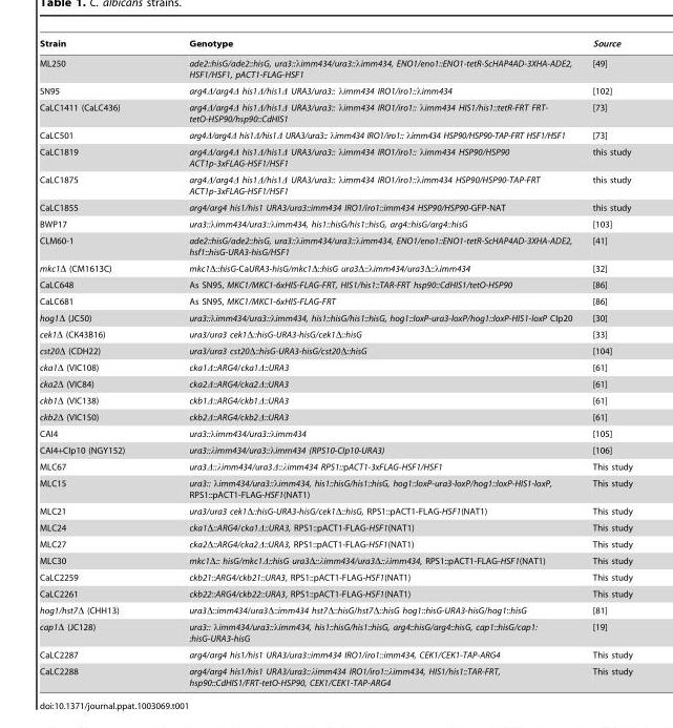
<table><thead><tr><td>Strain</td><td>Genotype</td><td>Source</td></tr></thead><tbody><tr><td>ML250</td><td>ade2::hisG/ade2::hisG, ura3::λimm434/ura3::λimm434, ENO1/eno1::ENO1-tetR-ScHAP4AD-3XHA-ADE2, HSF1/HSF1, pACT1-FLAG-HSF1</td><td>[49]</td></tr><tr><td>SN95</td><td>arg4Δ/arg4Δ his1Δ/his1Δ URA3/ura3:: λimm434 IRO1/iro1::λimm434</td><td>[102]</td></tr><tr><td>CaLC1411 (CaLC436)</td><td>arg4Δ/arg4Δ his1Δ/his1Δ URA3/ura3:: λimm434 IRO1/iro1:: λimm434 HIS1/his1::tetR-FRT FRT- tetO-HSP90/hsp90::CdHIS1</td><td>[73]</td></tr><tr><td>CaLC501</td><td>arg4Δ/arg4Δ his1Δ/his1Δ URA3/ura3:: λimm434 IRO1/iro1:: λimm434 HSP90/HSP90-TAP-FRT HSF1/HSF1</td><td>[73]</td></tr><tr><td>CaLC1819</td><td>arg4Δ/arg4Δ his1Δ/his1Δ URA3/ura3:: λimm434 IRO1/iro1:: λimm434 HSP90/HSP90 ACT1p-3xFLAG-HSF1/HSF1</td><td>this study</td></tr><tr><td>CaLC1875</td><td>arg4Δ/arg4Δ his1Δ/his1Δ URA3/ura3:: λimm434 IRO1/iro1::λimm434 HSP90/HSP90-TAP-FRT ACT1p-3xFLAG-HSF1/HSF1</td><td>this study</td></tr><tr><td>CaLC1855</td><td>arg4/arg4 his1/his1 URA3/ura3::imm434 IRO1/iro1::imm434 HSP90/HSP90-GFP-NAT</td><td>this study</td></tr><tr><td>BWP17</td><td>ura3::λimm434/ura3::λimm434, his1::hisG/his1::hisG, arg4::hisG/arg4::hisG</td><td>[103]</td></tr><tr><td>CLM60-1</td><td>ade2::hisG/ade2::hisG, ura3::λimm434/ura3::λimm434, ENO1/eno1::ENO1-tetR-ScHAP4AD-3XHA-ADE2, hsf1::hisG-URA3-hisG/HSF1</td><td>[41]</td></tr><tr><td>mkc1Δ (CM1613C)</td><td>mkc1Δ::hisG-CaURA3-hisG/mkc1Δ::hisG ura3Δ::λimm434/ura3Δ::λimm434</td><td>[32]</td></tr><tr><td>CaLC648</td><td>As SN95, MKC1/MKC1-6xHIS-FLAG-FRT, HIS1/his1::TAR-FRT hsp90::CdHIS1/tetO-HSP90</td><td>[86]</td></tr><tr><td>CaLC681</td><td>As SN95, MKC1/MKC1-6xHIS-FLAG-FRT</td><td>[86]</td></tr><tr><td>hog1Δ (JC50)</td><td>ura3::λimm434/ura3::λimm434, his1::hisG/his1::hisG, hog1::loxP-ura3-loxP/hog1::loxP-HIS1-loxP CIp20</td><td>[30]</td></tr><tr><td>cek1Δ (CK43B16)</td><td>ura3/ura3 cek1Δ::hisG-URA3-hisG/cek1Δ::hisG</td><td>[33]</td></tr><tr><td>cst20Δ (CDH22)</td><td>ura3/ura3 cst20Δ::hisG-URA3-hisG/cst20Δ::hisG</td><td>[104]</td></tr><tr><td>cka1Δ (VIC108)</td><td>cka1Δ::ARG4/cka1Δ::URA3</td><td>[61]</td></tr><tr><td>cka2Δ (VIC84)</td><td>cka2Δ::ARG4/cka2Δ::URA3</td><td>[61]</td></tr><tr><td>ckb1Δ (VIC138)</td><td>ckb1Δ::ARG4/ckb1Δ::URA3</td><td>[61]</td></tr><tr><td>ckb2Δ (VIC150)</td><td>ckb2Δ::ARG4/ckb2Δ::URA3</td><td>[61]</td></tr><tr><td>CAI4</td><td>ura3::λimm434/ura3::λimm434</td><td>[105]</td></tr><tr><td>CAI4+CIp10 (NGY152)</td><td>ura3::λimm434/ura3::λimm434 (RPS10-CIp10-URA3)</td><td>[106]</td></tr><tr><td>MLC67</td><td>ura3Δ::λimm434/ura3Δ::λimm434 RPS1::pACT1-3xFLAG-HSF1/HSF1</td><td>This study</td></tr><tr><td>MLC15</td><td>ura3:: λimm434/ura3::λimm434, his1::hisG/his1::hisG, hog1::loxP-ura3-loxP/hog1::loxP-HIS1-loxP, RPS1::pACT1-FLAG-HSF1(NAT1)</td><td>This study</td></tr><tr><td>MLC21</td><td>ura3/ura3 cek1Δ::hisG-URA3-hisG/cek1Δ::hisG, RPS1::pACT1-FLAG-HSF1(NAT1)</td><td>This study</td></tr><tr><td>MLC24</td><td>cka1Δ::ARG4/cka1Δ::URA3, RPS1::pACT1-FLAG-HSF1(NAT1)</td><td>This study</td></tr><tr><td>MLC27</td><td>cka2Δ::ARG4/cka2Δ::URA3, RPS1::pACT1-FLAG-HSF1(NAT1)</td><td>This study</td></tr><tr><td>MLC30</td><td>mkc1Δ:: hisG/mkc1Δ::hisG ura3Δ::λimm434/ura3Δ::λimm434, RPS1::pACT1-FLAG-HSF1(NAT1)</td><td>This study</td></tr><tr><td>CaLC2259</td><td>ckb21::ARG4/ckb21::URA3, RPS1::pACT1-FLAG-HSF1(NAT1)</td><td>This study</td></tr><tr><td>CaLC2261</td><td>ckb22::ARG4/ckb22::URA3, RPS1::pACT1-FLAG-HSF1(NAT1)</td><td>This study</td></tr><tr><td>hog1/hst7Δ (CHH13)</td><td>ura3Δ::imm434/ura3Δ::imm434 hst7Δ::hisG/hst7Δ::hisG hog1::hisG-URA3-hisG/hog1::hisG</td><td>[81]</td></tr><tr><td>cap1Δ (JC128)</td><td>ura3:: λimm434/ura3::λimm434, his1::hisG/his1::hisG, arg4::hisG/arg4::hisG, cap1::hisG/cap1: :hisG-URA3-hisG</td><td>[19]</td></tr><tr><td>CaLC2287</td><td>arg4/arg4 his1/his1 URA3/ura3::imm434 IRO1/iro1::imm434, CEK1/CEK1-TAP-ARG4</td><td>This study</td></tr><tr><td>CaLC2288</td><td>arg4/arg4 his1/his1 URA3/ura3::λimm434 IRO1/iro1::λimm434, HIS1/his1::TAR-FRT, hsp90::CdHIS1/FRT-tetO-HSP90, CEK1/CEK1-TAP-ARG4</td><td>This study</td></tr></tbody></table>